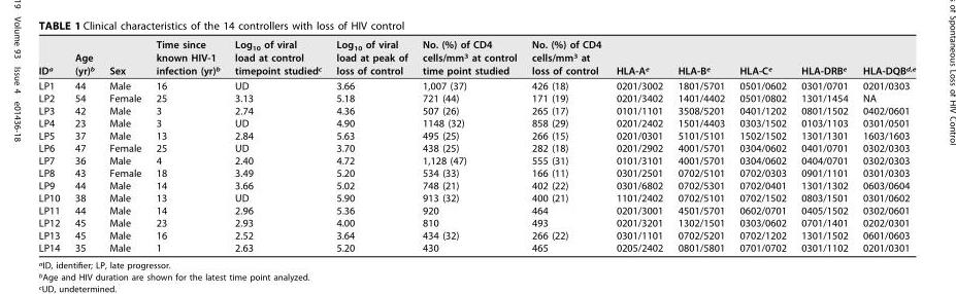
<table><thead><tr><td>ID<sup>a</sup></td><td>Age (yr)<sup>b</sup></td><td>Sex</td><td>Time since known HIV-1 infection (yr)<sup>b</sup></td><td>Log<sub>10</sub> of viral load at control timepoint studied<sup>c</sup></td><td>Log<sub>10</sub> of viral load at peak of loss of control</td><td>No. (%) of CD4 cells/mm<sup>3</sup> at control time point studied</td><td>No. (%) of CD4 cells/mm<sup>3</sup> at loss of control</td><td>HLA-A<sup>e</sup></td><td>HLA-B<sup>e</sup></td><td>HLA-C<sup>e</sup></td><td>HLA-DRB<sup>e</sup></td><td>HLA-DQB<sup>d,e</sup></td></tr></thead><tbody><tr><td>LP1</td><td>44</td><td>Male</td><td>16</td><td>UD</td><td>3.66</td><td>1,007 (37)</td><td>426 (18)</td><td>0201/3002</td><td>1801/5701</td><td>0501/0602</td><td>0301/0701</td><td>0201/0303</td></tr><tr><td>LP2</td><td>54</td><td>Female</td><td>25</td><td>3.13</td><td>5.18</td><td>721 (44)</td><td>171 (19)</td><td>0201/3402</td><td>1401/4402</td><td>0501/0802</td><td>1301/1454</td><td>NA</td></tr><tr><td>LP3</td><td>42</td><td>Male</td><td>3</td><td>2.74</td><td>4.36</td><td>507 (26)</td><td>265 (17)</td><td>0101/1101</td><td>3508/5201</td><td>0401/1202</td><td>0801/1502</td><td>0402/0601</td></tr><tr><td>LP4</td><td>23</td><td>Male</td><td>3</td><td>UD</td><td>4.90</td><td>1148 (32)</td><td>858 (29)</td><td>0201/2402</td><td>1501/4403</td><td>0303/1502</td><td>0103/1103</td><td>0301/0501</td></tr><tr><td>LP5</td><td>37</td><td>Male</td><td>13</td><td>2.84</td><td>5.63</td><td>495 (25)</td><td>266 (15)</td><td>0201/0301</td><td>5101/5101</td><td>1502/1502</td><td>1301/1301</td><td>1603/1603</td></tr><tr><td>LP6</td><td>47</td><td>Female</td><td>25</td><td>UD</td><td>3.70</td><td>438 (25)</td><td>282 (18)</td><td>0201/2902</td><td>4001/5701</td><td>0304/0602</td><td>0401/0701</td><td>0302/0303</td></tr><tr><td>LP7</td><td>36</td><td>Male</td><td>4</td><td>2.40</td><td>4.72</td><td>1,128 (47)</td><td>555 (31)</td><td>0101/3101</td><td>4001/5701</td><td>0304/0602</td><td>0404/0701</td><td>0302/0303</td></tr><tr><td>LP8</td><td>43</td><td>Female</td><td>18</td><td>3.49</td><td>5.20</td><td>534 (33)</td><td>166 (11)</td><td>0301/2501</td><td>0702/5101</td><td>0702/0303</td><td>0901/1101</td><td>0301/0303</td></tr><tr><td>LP9</td><td>44</td><td>Male</td><td>14</td><td>3.66</td><td>5.02</td><td>748 (21)</td><td>402 (22)</td><td>0301/6802</td><td>0702/5301</td><td>0702/0401</td><td>1301/1302</td><td>0603/0604</td></tr><tr><td>LP10</td><td>38</td><td>Male</td><td>13</td><td>UD</td><td>5.90</td><td>913 (32)</td><td>400 (21)</td><td>1101/2402</td><td>0702/5101</td><td>0702/1502</td><td>0803/1501</td><td>0301/0602</td></tr><tr><td>LP11</td><td>44</td><td>Male</td><td>14</td><td>2.96</td><td>5.36</td><td>920</td><td>464</td><td>0201/3001</td><td>4501/5701</td><td>0602/0701</td><td>0405/1502</td><td>0302/0601</td></tr><tr><td>LP12</td><td>45</td><td>Male</td><td>23</td><td>2.93</td><td>4.00</td><td>810</td><td>493</td><td>0201/3201</td><td>1302/1501</td><td>0303/0602</td><td>0701/1401</td><td>0202/0301</td></tr><tr><td>LP13</td><td>45</td><td>Male</td><td>16</td><td>2.52</td><td>3.64</td><td>434 (32)</td><td>266 (22)</td><td>0301/1101</td><td>0702/5201</td><td>0702/1202</td><td>1301/1502</td><td>0601/0603</td></tr><tr><td>LP14</td><td>35</td><td>Male</td><td>1</td><td>2.63</td><td>5.20</td><td>430</td><td>465</td><td>0205/2402</td><td>0801/5801</td><td>0701/0702</td><td>0301/1102</td><td>0201/0301</td></tr></tbody></table>